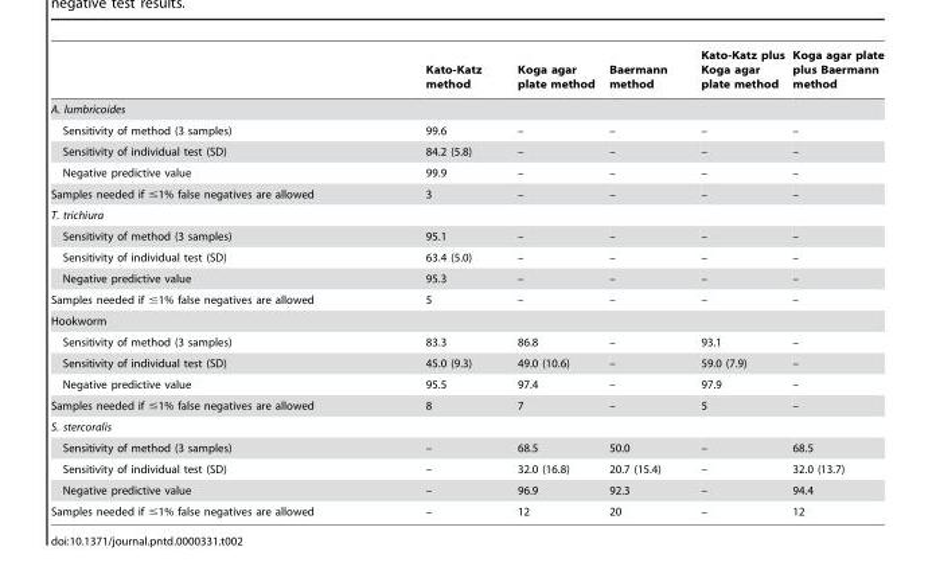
<table><thead><tr><td></td><td>Kato-Katz method</td><td>Koga agar plate method</td><td>Baermann method</td><td>Kato-Katz plus Koga agar plate method</td><td>Koga agar plate plus Baermann method</td></tr></thead><tbody><tr><td colspan="6">A. lumbricoides</td></tr><tr><td>Sensitivity of method (3 samples)</td><td>99.6</td><td>–</td><td>–</td><td>–</td><td>–</td></tr><tr><td>Sensitivity of individual test (SD)</td><td>84.2 (5.8)</td><td>–</td><td>–</td><td>–</td><td>–</td></tr><tr><td>Negative predictive value</td><td>99.9</td><td>–</td><td>–</td><td>–</td><td>–</td></tr><tr><td>Samples needed if ≤1% false negatives are allowed</td><td>3</td><td>–</td><td>–</td><td>–</td><td>–</td></tr><tr><td colspan="6">T. trichiura</td></tr><tr><td>Sensitivity of method (3 samples)</td><td>95.1</td><td>–</td><td>–</td><td>–</td><td>–</td></tr><tr><td>Sensitivity of individual test (SD)</td><td>63.4 (5.0)</td><td>–</td><td>–</td><td>–</td><td>–</td></tr><tr><td>Negative predictive value</td><td>95.3</td><td>–</td><td>–</td><td>–</td><td>–</td></tr><tr><td>Samples needed if ≤1% false negatives are allowed</td><td>5</td><td>–</td><td>–</td><td>–</td><td>–</td></tr><tr><td colspan="6">Hookworm</td></tr><tr><td>Sensitivity of method (3 samples)</td><td>83.3</td><td>86.8</td><td>–</td><td>93.1</td><td>–</td></tr><tr><td>Sensitivity of individual test (SD)</td><td>45.0 (9.3)</td><td>49.0 (10.6)</td><td>–</td><td>59.0 (7.9)</td><td>–</td></tr><tr><td>Negative predictive value</td><td>95.5</td><td>97.4</td><td>–</td><td>97.9</td><td>–</td></tr><tr><td>Samples needed if ≤1% false negatives are allowed</td><td>8</td><td>7</td><td>–</td><td>5</td><td>–</td></tr><tr><td colspan="6">S. stercoralis</td></tr><tr><td>Sensitivity of method (3 samples)</td><td>–</td><td>68.5</td><td>50.0</td><td>–</td><td>68.5</td></tr><tr><td>Sensitivity of individual test (SD)</td><td>–</td><td>32.0 (16.8)</td><td>20.7 (15.4)</td><td>–</td><td>32.0 (13.7)</td></tr><tr><td>Negative predictive value</td><td>–</td><td>96.9</td><td>92.3</td><td>–</td><td>94.4</td></tr><tr><td>Samples needed if ≤1% false negatives are allowed</td><td>–</td><td>12</td><td>20</td><td>–</td><td>12</td></tr></tbody></table>